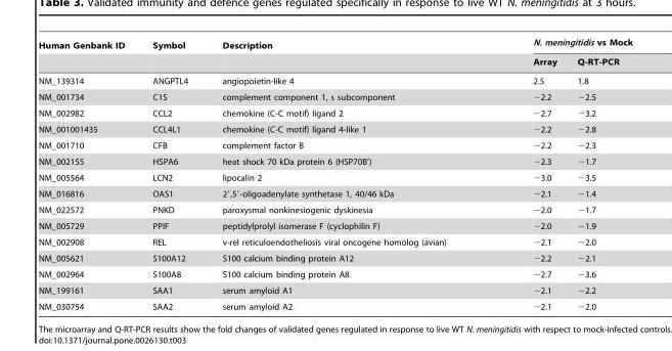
<table><thead><tr><td rowspan="2">Human Genbank ID</td><td rowspan="2">Symbol</td><td rowspan="2">Description</td><td colspan="2">N. meningitidis vs Mock</td></tr><tr><td>Array</td><td>Q-RT-PCR</td></tr></thead><tbody><tr><td>NM_139314</td><td>ANGPTL4</td><td>angiopoietin-like 4</td><td>2.5</td><td>1.8</td></tr><tr><td>NM_001734</td><td>C1S</td><td>complement component 1, s subcomponent</td><td>−2.2</td><td>−2.5</td></tr><tr><td>NM_002982</td><td>CCL2</td><td>chemokine (C-C motif) ligand 2</td><td>−2.7</td><td>−3.2</td></tr><tr><td>NM_001001435</td><td>CCL4L1</td><td>chemokine (C-C motif) ligand 4-like 1</td><td>−2.2</td><td>−2.8</td></tr><tr><td>NM_001710</td><td>CFB</td><td>complement factor B</td><td>−2.2</td><td>−2.3</td></tr><tr><td>NM_002155</td><td>HSPA6</td><td>heat shock 70 kDa protein 6 (HSP70B’)</td><td>−2.3</td><td>−1.7</td></tr><tr><td>NM_005564</td><td>LCN2</td><td>lipocalin 2</td><td>−3.0</td><td>−3.5</td></tr><tr><td>NM_016816</td><td>OAS1</td><td>2′,5′-oligoadenylate synthetase 1, 40/46 kDa</td><td>−2.1</td><td>−1.4</td></tr><tr><td>NM_022572</td><td>PNKD</td><td>paroxysmal nonkinesiogenic dyskinesia</td><td>−2.0</td><td>−1.7</td></tr><tr><td>NM_005729</td><td>PPIF</td><td>peptidylprolyl isomerase F (cyclophilin F)</td><td>−2.0</td><td>−1.9</td></tr><tr><td>NM_002908</td><td>REL</td><td>v-rel reticuloendotheliosis viral oncogene homolog (avian)</td><td>−2.1</td><td>−2.0</td></tr><tr><td>NM_005621</td><td>S100A12</td><td>S100 calcium binding protein A12</td><td>−2.2</td><td>−2.1</td></tr><tr><td>NM_002964</td><td>S100A8</td><td>S100 calcium binding protein A8</td><td>−2.7</td><td>−3.6</td></tr><tr><td>NM_199161</td><td>SAA1</td><td>serum amyloid A1</td><td>−2.1</td><td>−2.2</td></tr><tr><td>NM_030754</td><td>SAA2</td><td>serum amyloid A2</td><td>−2.1</td><td>−2.0</td></tr></tbody></table>